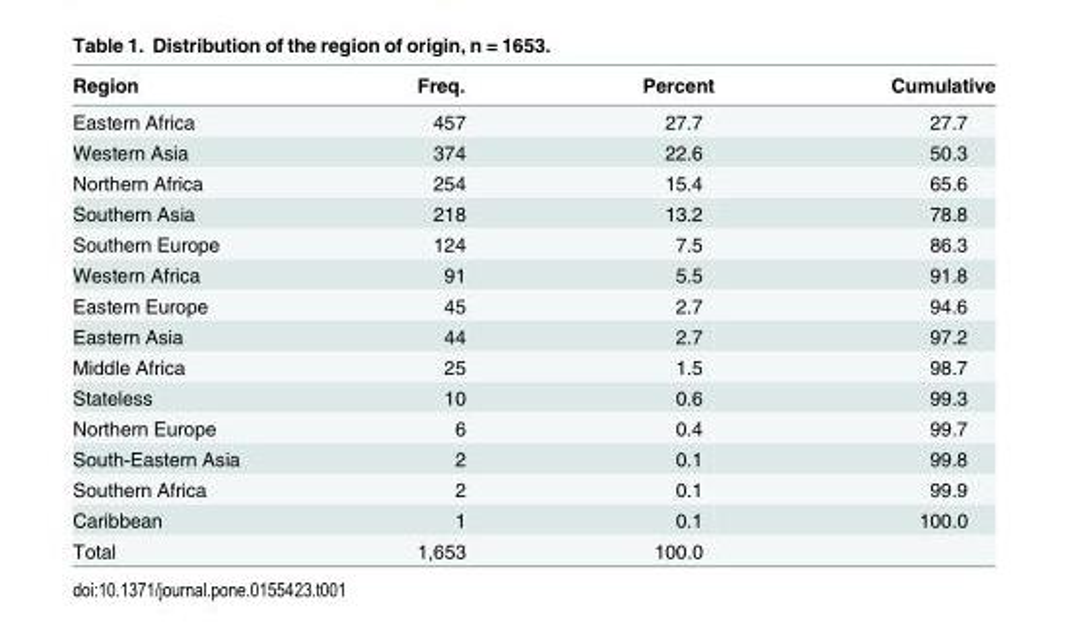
<table><thead><tr><td>Region</td><td>Freq.</td><td>Percent</td><td>Cumulative</td></tr></thead><tbody><tr><td>Eastern Africa</td><td>457</td><td>27.7</td><td>27.7</td></tr><tr><td>Western Asia</td><td>374</td><td>22.6</td><td>50.3</td></tr><tr><td>Northern Africa</td><td>254</td><td>15.4</td><td>65.6</td></tr><tr><td>Southern Asia</td><td>218</td><td>13.2</td><td>78.8</td></tr><tr><td>Southern Europe</td><td>124</td><td>7.5</td><td>86.3</td></tr><tr><td>Western Africa</td><td>91</td><td>5.5</td><td>91.8</td></tr><tr><td>Eastern Europe</td><td>45</td><td>2.7</td><td>94.6</td></tr><tr><td>Eastern Asia</td><td>44</td><td>2.7</td><td>97.2</td></tr><tr><td>Middle Africa</td><td>25</td><td>1.5</td><td>98.7</td></tr><tr><td>Stateless</td><td>10</td><td>0.6</td><td>99.3</td></tr><tr><td>Northern Europe</td><td>6</td><td>0.4</td><td>99.7</td></tr><tr><td>South-Eastern Asia</td><td>2</td><td>0.1</td><td>99.8</td></tr><tr><td>Southern Africa</td><td>2</td><td>0.1</td><td>99.9</td></tr><tr><td>Caribbean</td><td>1</td><td>0.1</td><td>100.0</td></tr><tr><td>Total</td><td>1,653</td><td>100.0</td><td></td></tr></tbody></table>